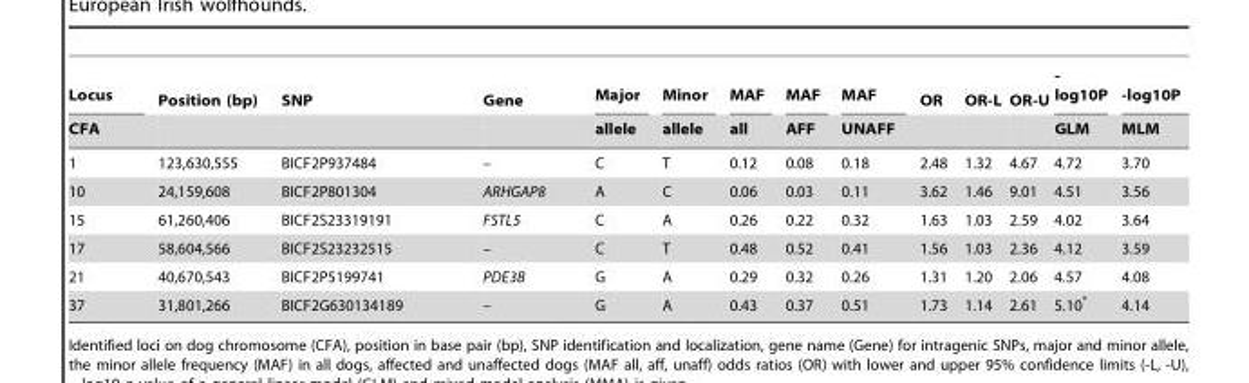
<table><thead><tr><td rowspan="2">Locus CFA</td><td rowspan="2">Position (bp)</td><td rowspan="2">SNP</td><td rowspan="2">Gene</td><td rowspan="2">Major allele</td><td rowspan="2">Minor allele</td><td rowspan="2">MAF all</td><td rowspan="2">MAF AFF</td><td rowspan="2">MAF UNAFF</td><td rowspan="2">OR</td><td rowspan="2">OR-L</td><td rowspan="2">OR-U</td><td rowspan="2">- log10P GLM</td><td rowspan="2">-log10P MLM</td></tr><tr></tr></thead><tbody><tr><td>1</td><td>123,630,555</td><td>BICF2P937484</td><td>–</td><td>C</td><td>T</td><td>0.12</td><td>0.08</td><td>0.18</td><td>2.48</td><td>1.32</td><td>4.67</td><td>4.72</td><td>3.70</td></tr><tr><td>10</td><td>24,159,608</td><td>BICF2P801304</td><td>ARHGAP8</td><td>A</td><td>C</td><td>0.06</td><td>0.03</td><td>0.11</td><td>3.62</td><td>1.46</td><td>9.01</td><td>4.51</td><td>3.56</td></tr><tr><td>15</td><td>61,260,406</td><td>BICF2S23319191</td><td>FSTL5</td><td>C</td><td>A</td><td>0.26</td><td>0.22</td><td>0.32</td><td>1.63</td><td>1.03</td><td>2.59</td><td>4.02</td><td>3.64</td></tr><tr><td>17</td><td>58,604,566</td><td>BICF2S23232515</td><td>–</td><td>C</td><td>T</td><td>0.48</td><td>0.52</td><td>0.41</td><td>1.56</td><td>1.03</td><td>2.36</td><td>4.12</td><td>3.59</td></tr><tr><td>21</td><td>40,670,543</td><td>BICF2P5199741</td><td>PDE3B</td><td>G</td><td>A</td><td>0.29</td><td>0.32</td><td>0.26</td><td>1.31</td><td>1.20</td><td>2.06</td><td>4.57</td><td>4.08</td></tr><tr><td>37</td><td>31,801,266</td><td>BICF2G630134189</td><td>–</td><td>G</td><td>A</td><td>0.43</td><td>0.37</td><td>0.51</td><td>1.73</td><td>1.14</td><td>2.61</td><td>5.10*</td><td>4.14</td></tr></tbody></table>